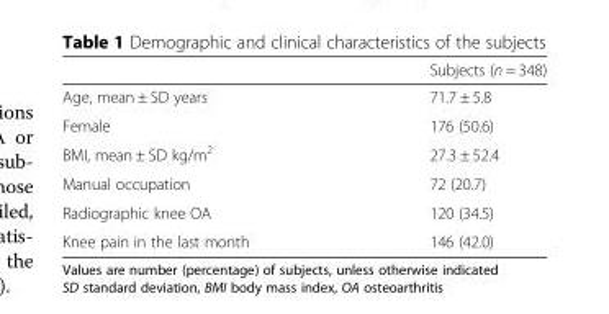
<table><thead><tr><td></td><td>Subjects (n = 348)</td></tr></thead><tbody><tr><td>Age, mean ± SD years</td><td>71.7 ± 5.8</td></tr><tr><td>Female</td><td>176 (50.6)</td></tr><tr><td>BMI, mean ± SD kg/m<sup>2</sup></td><td>27.3 ± 52.4</td></tr><tr><td>Manual occupation</td><td>72 (20.7)</td></tr><tr><td>Radiographic knee OA</td><td>120 (34.5)</td></tr><tr><td>Knee pain in the last month</td><td>146 (42.0)</td></tr></tbody></table>